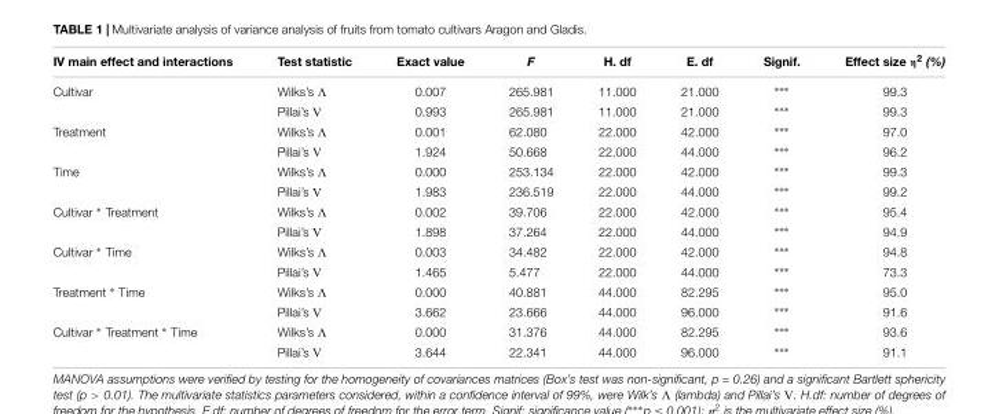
<table><thead><tr><td>IV main effect and interactions</td><td>Test statistic</td><td>Exact value</td><td>F</td><td>H. df</td><td>E. df</td><td>Signif.</td><td>Effect size η<sup>2</sup> (%)</td></tr></thead><tbody><tr><td rowspan="2">Cultivar</td><td>Wilks’s Λ</td><td>0.007</td><td>265.981</td><td>11.000</td><td>21.000</td><td>∗∗∗</td><td>99.3</td></tr><tr><td>Pillai’s V</td><td>0.993</td><td>265.981</td><td>11.000</td><td>21.000</td><td>∗∗∗</td><td>99.3</td></tr><tr><td rowspan="2">Treatment</td><td>Wilks’s Λ</td><td>0.001</td><td>62.080</td><td>22.000</td><td>42.000</td><td>∗∗∗</td><td>97.0</td></tr><tr><td>Pillai’s V</td><td>1.924</td><td>50.668</td><td>22.000</td><td>44.000</td><td>∗∗∗</td><td>96.2</td></tr><tr><td rowspan="2">Time</td><td>Wilks’s Λ</td><td>0.000</td><td>253.134</td><td>22.000</td><td>42.000</td><td>∗∗∗</td><td>99.3</td></tr><tr><td>Pillai’s V</td><td>1.983</td><td>236.519</td><td>22.000</td><td>44.000</td><td>∗∗∗</td><td>99.2</td></tr><tr><td rowspan="2">Cultivar ∗ Treatment</td><td>Wilks’s Λ</td><td>0.002</td><td>39.706</td><td>22.000</td><td>42.000</td><td>∗∗∗</td><td>95.4</td></tr><tr><td>Pillai’s V</td><td>1.898</td><td>37.264</td><td>22.000</td><td>44.000</td><td>∗∗∗</td><td>94.9</td></tr><tr><td rowspan="2">Cultivar ∗ Time</td><td>Wilks’s Λ</td><td>0.003</td><td>34.482</td><td>22.000</td><td>42.000</td><td>∗∗∗</td><td>94.8</td></tr><tr><td>Pillai’s V</td><td>1.465</td><td>5.477</td><td>22.000</td><td>44.000</td><td>∗∗∗</td><td>73.3</td></tr><tr><td rowspan="2">Treatment ∗ Time</td><td>Wilks’s Λ</td><td>0.000</td><td>40.881</td><td>44.000</td><td>82.295</td><td>∗∗∗</td><td>95.0</td></tr><tr><td>Pillai’s V</td><td>3.662</td><td>23.666</td><td>44.000</td><td>96.000</td><td>∗∗∗</td><td>91.6</td></tr><tr><td rowspan="2">Cultivar ∗ Treatment ∗ Time</td><td>Wilks’s Λ</td><td>0.000</td><td>31.376</td><td>44.000</td><td>82.295</td><td>∗∗∗</td><td>93.6</td></tr><tr><td>Pillai’s V</td><td>3.644</td><td>22.341</td><td>44.000</td><td>96.000</td><td>∗∗∗</td><td>91.1</td></tr></tbody></table>